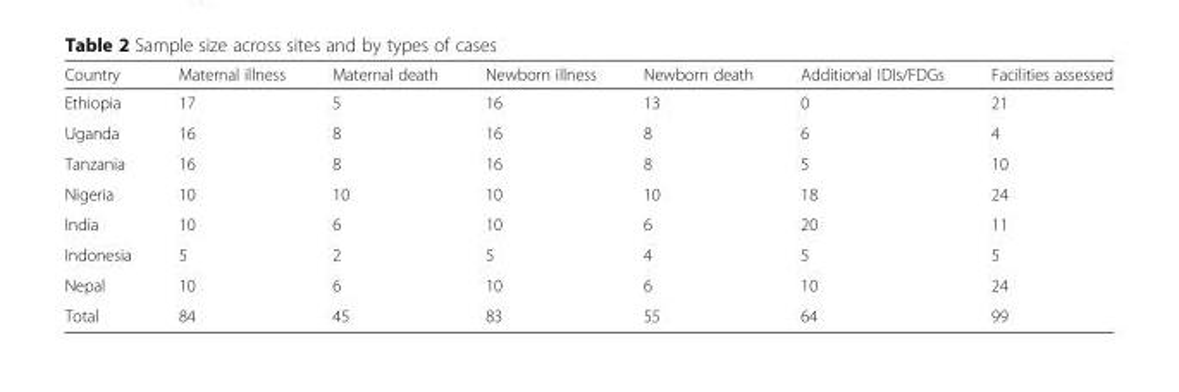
<table><thead><tr><td>Country</td><td>Maternal illness</td><td>Maternal death</td><td>Newborn illness</td><td>Newborn death</td><td>Additional IDIs/FDGs</td><td>Facilities assessed</td></tr></thead><tbody><tr><td>Ethiopia</td><td>17</td><td>5</td><td>16</td><td>13</td><td>0</td><td>21</td></tr><tr><td>Uganda</td><td>16</td><td>8</td><td>16</td><td>8</td><td>6</td><td>4</td></tr><tr><td>Tanzania</td><td>16</td><td>8</td><td>16</td><td>8</td><td>5</td><td>10</td></tr><tr><td>Nigeria</td><td>10</td><td>10</td><td>10</td><td>10</td><td>18</td><td>24</td></tr><tr><td>India</td><td>10</td><td>6</td><td>10</td><td>6</td><td>20</td><td>11</td></tr><tr><td>Indonesia</td><td>5</td><td>2</td><td>5</td><td>4</td><td>5</td><td>5</td></tr><tr><td>Nepal</td><td>10</td><td>6</td><td>10</td><td>6</td><td>10</td><td>24</td></tr><tr><td>Total</td><td>84</td><td>45</td><td>83</td><td>55</td><td>64</td><td>99</td></tr></tbody></table>